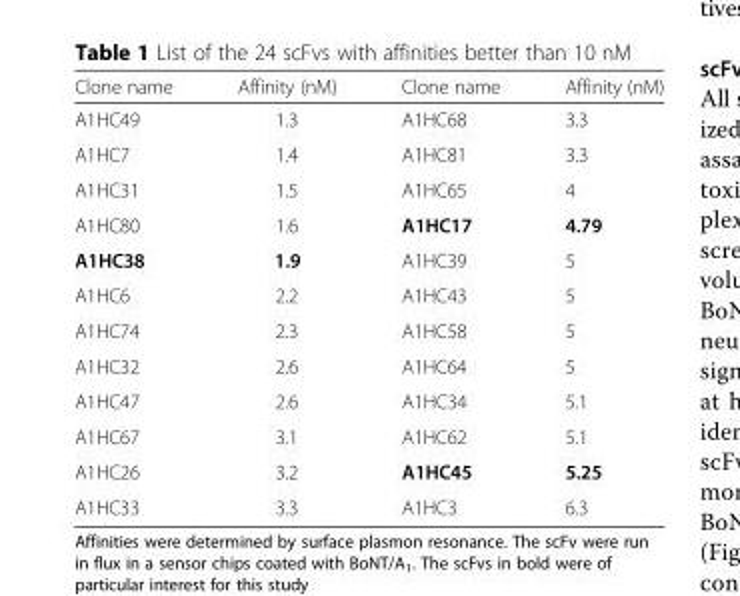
<table><thead><tr><td>Clone name</td><td>Affinity (nM)</td><td>Clone name</td><td>Affinity (nM)</td></tr></thead><tbody><tr><td>A1HC49</td><td>1.3</td><td>A1HC68</td><td>3.3</td></tr><tr><td>A1HC7</td><td>1.4</td><td>A1HC81</td><td>3.3</td></tr><tr><td>A1HC31</td><td>1.5</td><td>A1HC65</td><td>4</td></tr><tr><td>A1HC80</td><td>1.6</td><td>A1HC17</td><td>4.79</td></tr><tr><td>A1HC38</td><td>1.9</td><td>A1HC39</td><td>5</td></tr><tr><td>A1HC6</td><td>2.2</td><td>A1HC43</td><td>5</td></tr><tr><td>A1HC74</td><td>2.3</td><td>A1HC58</td><td>5</td></tr><tr><td>A1HC32</td><td>2.6</td><td>A1HC64</td><td>5</td></tr><tr><td>A1HC47</td><td>2.6</td><td>A1HC34</td><td>5.1</td></tr><tr><td>A1HC67</td><td>3.1</td><td>A1HC62</td><td>5.1</td></tr><tr><td>A1HC26</td><td>3.2</td><td>A1HC45</td><td>5.25</td></tr><tr><td>A1HC33</td><td>3.3</td><td>A1HC3</td><td>6.3</td></tr></tbody></table>